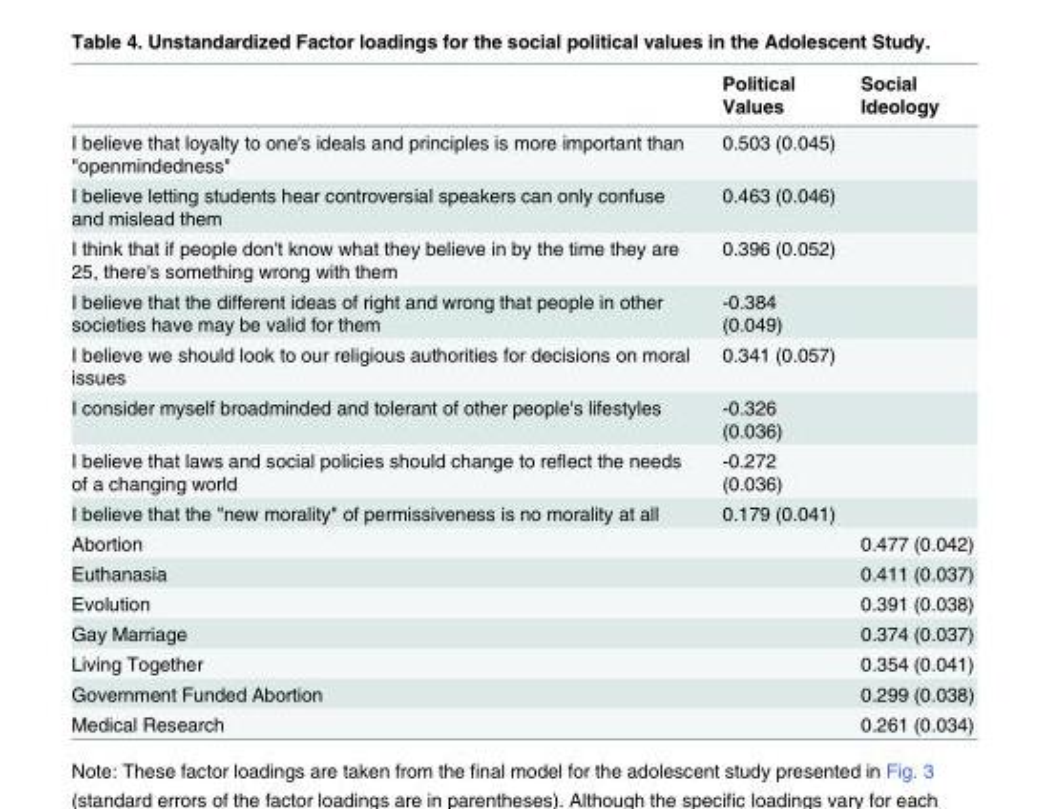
<table><thead><tr><td></td><td>Political Values</td><td>Social Ideology</td></tr></thead><tbody><tr><td>I believe that loyalty to one&#x27;s ideals and principles is more important than &quot;openmindedness&quot;</td><td>0.503 (0.045)</td><td></td></tr><tr><td>I believe letting students hear controversial speakers can only confuse and mislead them</td><td>0.463 (0.046)</td><td></td></tr><tr><td>I think that if people don&#x27;t know what they believe in by the time they are 25, there&#x27;s something wrong with them</td><td>0.396 (0.052)</td><td></td></tr><tr><td>I believe that the different ideas of right and wrong that people in other societies have may be valid for them</td><td>-0.384 (0.049)</td><td></td></tr><tr><td>I believe we should look to our religious authorities for decisions on moral issues</td><td>0.341 (0.057)</td><td></td></tr><tr><td>I consider myself broadminded and tolerant of other people&#x27;s lifestyles</td><td>-0.326 (0.036)</td><td></td></tr><tr><td>I believe that laws and social policies should change to reflect the needs of a changing world</td><td>-0.272 (0.036)</td><td></td></tr><tr><td>I believe that the &quot;new morality&quot; of permissiveness is no morality at all</td><td>0.179 (0.041)</td><td></td></tr><tr><td>Abortion</td><td></td><td>0.477 (0.042)</td></tr><tr><td>Euthanasia</td><td></td><td>0.411 (0.037)</td></tr><tr><td>Evolution</td><td></td><td>0.391 (0.038)</td></tr><tr><td>Gay Marriage</td><td></td><td>0.374 (0.037)</td></tr><tr><td>Living Together</td><td></td><td>0.354 (0.041)</td></tr><tr><td>Government Funded Abortion</td><td></td><td>0.299 (0.038)</td></tr><tr><td>Medical Research</td><td></td><td>0.261 (0.034)</td></tr></tbody></table>